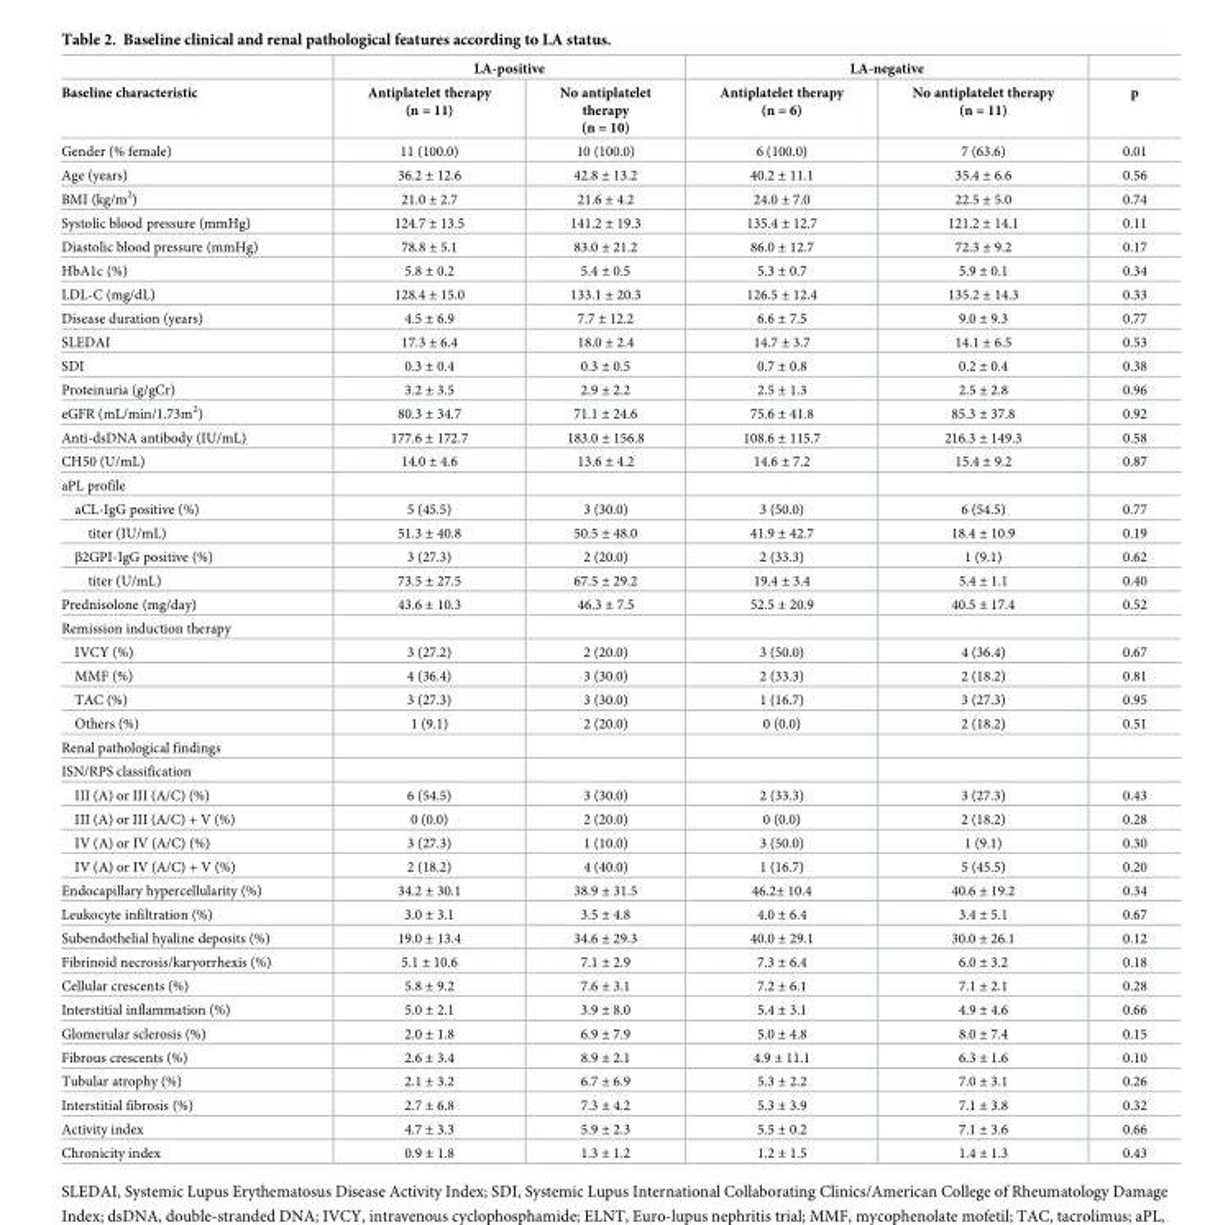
<table><thead><tr><td rowspan="2">Baseline characteristic</td><td colspan="2">LA-positive</td><td colspan="2">LA-negative</td><td rowspan="2">p</td></tr><tr><td>Antiplatelet therapy (n = 11)</td><td>No antiplatelet therapy (n = 10)</td><td>Antiplatelet therapy (n = 6)</td><td>No antiplatelet therapy (n = 11)</td></tr></thead><tbody><tr><td>Gender (% female)</td><td>11 (100.0)</td><td>10 (100.0)</td><td>6 (100.0)</td><td>7 (63.6)</td><td>0.01</td></tr><tr><td>Age (years)</td><td>36.2 ± 12.6</td><td>42.8 ± 13.2</td><td>40.2 ± 11.1</td><td>35.4 ± 6.6</td><td>0.56</td></tr><tr><td>BMI (kg/m<sup>2</sup>)</td><td>21.0 ± 2.7</td><td>21.6 ± 4.2</td><td>24.0 ± 7.0</td><td>22.5 ± 5.0</td><td>0.74</td></tr><tr><td>Systolic blood pressure (mmHg)</td><td>124.7 ± 13.5</td><td>141.2 ± 19.3</td><td>135.4 ± 12.7</td><td>121.2 ± 14.1</td><td>0.11</td></tr><tr><td>Diastolic blood pressure (mmHg)</td><td>78.8 ± 5.1</td><td>83.0 ± 21.2</td><td>86.0 ± 12.7</td><td>72.3 ± 9.2</td><td>0.17</td></tr><tr><td>HbA1c (%)</td><td>5.8 ± 0.2</td><td>5.4 ± 0.5</td><td>5.3 ± 0.7</td><td>5.9 ± 0.1</td><td>0.34</td></tr><tr><td>LDL-C (mg/dL)</td><td>128.4 ± 15.0</td><td>133.1 ± 20.3</td><td>126.5 ± 12.4</td><td>135.2 ± 14.3</td><td>0.33</td></tr><tr><td>Disease duration (years)</td><td>4.5 ± 6.9</td><td>7.7 ± 12.2</td><td>6.6 ± 7.5</td><td>9.0 ± 9.3</td><td>0.77</td></tr><tr><td>SLEDAI</td><td>17.3 ± 6.4</td><td>18.0 ± 2.4</td><td>14.7 ± 3.7</td><td>14.1 ± 6.5</td><td>0.53</td></tr><tr><td>SDI</td><td>0.3 ± 0.4</td><td>0.3 ± 0.5</td><td>0.7 ± 0.8</td><td>0.2 ± 0.4</td><td>0.38</td></tr><tr><td>Proteinuria (g/gCr)</td><td>3.2 ± 3.5</td><td>2.9 ± 2.2</td><td>2.5 ± 1.3</td><td>2.5 ± 2.8</td><td>0.96</td></tr><tr><td>eGFR (mL/min/1.73m<sup>2</sup>)</td><td>80.3 ± 34.7</td><td>71.1 ± 24.6</td><td>75.6 ± 41.8</td><td>85.3 ± 37.8</td><td>0.92</td></tr><tr><td>Anti-dsDNA antibody (IU/mL)</td><td>177.6 ± 172.7</td><td>183.0 ± 156.8</td><td>108.6 ± 115.7</td><td>216.3 ± 149.3</td><td>0.58</td></tr><tr><td>CH50 (U/mL)</td><td>14.0 ± 4.6</td><td>13.6 ± 4.2</td><td>14.6 ± 7.2</td><td>15.4 ± 9.2</td><td>0.87</td></tr><tr><td colspan="6">aPL profile</td></tr><tr><td>aCL-IgG positive (%)</td><td>5 (45.5)</td><td>3 (30.0)</td><td>3 (50.0)</td><td>6 (54.5)</td><td>0.77</td></tr><tr><td>titer (IU/mL)</td><td>51.3 ± 40.8</td><td>50.5 ± 48.0</td><td>41.9 ± 42.7</td><td>18.4 ± 10.9</td><td>0.19</td></tr><tr><td>β2GPI-IgG positive (%)</td><td>3 (27.3)</td><td>2 (20.0)</td><td>2 (33.3)</td><td>1 (9.1)</td><td>0.62</td></tr><tr><td>titer (U/mL)</td><td>73.5 ± 27.5</td><td>67.5 ± 29.2</td><td>19.4 ± 3.4</td><td>5.4 ± 1.1</td><td>0.40</td></tr><tr><td>Prednisolone (mg/day)</td><td>43.6 ± 10.3</td><td>46.3 ± 7.5</td><td>52.5 ± 20.9</td><td>40.5 ± 17.4</td><td>0.52</td></tr><tr><td colspan="6">Remission induction therapy</td></tr><tr><td>IVCY (%)</td><td>3 (27.2)</td><td>2 (20.0)</td><td>3 (50.0)</td><td>4 (36.4)</td><td>0.67</td></tr><tr><td>MMF (%)</td><td>4 (36.4)</td><td>3 (30.0)</td><td>2 (33.3)</td><td>2 (18.2)</td><td>0.81</td></tr><tr><td>TAC (%)</td><td>3 (27.3)</td><td>3 (30.0)</td><td>1 (16.7)</td><td>3 (27.3)</td><td>0.95</td></tr><tr><td>Others (%)</td><td>1 (9.1)</td><td>2 (20.0)</td><td>0 (0.0)</td><td>2 (18.2)</td><td>0.51</td></tr><tr><td colspan="6">Renal pathological findings</td></tr><tr><td colspan="6">ISN/RPS classification</td></tr><tr><td>III (A) or III (A/C) (%)</td><td>6 (54.5)</td><td>3 (30.0)</td><td>2 (33.3)</td><td>3 (27.3)</td><td>0.43</td></tr><tr><td>III (A) or III (A/C) + V (%)</td><td>0 (0.0)</td><td>2 (20.0)</td><td>0 (0.0)</td><td>2 (18.2)</td><td>0.28</td></tr><tr><td>IV (A) or IV (A/C) (%)</td><td>3 (27.3)</td><td>1 (10.0)</td><td>3 (50.0)</td><td>1 (9.1)</td><td>0.30</td></tr><tr><td>IV (A) or IV (A/C) + V (%)</td><td>2 (18.2)</td><td>4 (40.0)</td><td>1 (16.7)</td><td>5 (45.5)</td><td>0.20</td></tr><tr><td>Endocapillary hypercellularity (%)</td><td>34.2 ± 30.1</td><td>38.9 ± 31.5</td><td>46.2± 10.4</td><td>40.6 ± 19.2</td><td>0.34</td></tr><tr><td>Leukocyte infiltration (%)</td><td>3.0 ± 3.1</td><td>3.5 ± 4.8</td><td>4.0 ± 6.4</td><td>3.4 ± 5.1</td><td>0.67</td></tr><tr><td>Subendothelial hyaline deposits (%)</td><td>19.0 ± 13.4</td><td>34.6 ± 29.3</td><td>40.0 ± 29.1</td><td>30.0 ± 26.1</td><td>0.12</td></tr><tr><td>Fibrinoid necrosis/karyorrhexis (%)</td><td>5.1 ± 10.6</td><td>7.1 ± 2.9</td><td>7.3 ± 6.4</td><td>6.0 ± 3.2</td><td>0.18</td></tr><tr><td>Cellular crescents (%)</td><td>5.8 ± 9.2</td><td>7.6 ± 3.1</td><td>7.2 ± 6.1</td><td>7.1 ± 2.1</td><td>0.28</td></tr><tr><td>Interstitial inflammation (%)</td><td>5.0 ± 2.1</td><td>3.9 ± 8.0</td><td>5.4 ± 3.1</td><td>4.9 ± 4.6</td><td>0.66</td></tr><tr><td>Glomerular sclerosis (%)</td><td>2.0 ± 1.8</td><td>6.9 ± 7.9</td><td>5.0 ± 4.8</td><td>8.0 ± 7.4</td><td>0.15</td></tr><tr><td>Fibrous crescents (%)</td><td>2.6 ± 3.4</td><td>8.9 ± 2.1</td><td>4.9 ± 11.1</td><td>6.3 ± 1.6</td><td>0.10</td></tr><tr><td>Tubular atrophy (%)</td><td>2.1 ± 3.2</td><td>6.7 ± 6.9</td><td>5.3 ± 2.2</td><td>7.0 ± 3.1</td><td>0.26</td></tr><tr><td>Interstitial fibrosis (%)</td><td>2.7 ± 6.8</td><td>7.3 ± 4.2</td><td>5.3 ± 3.9</td><td>7.1 ± 3.8</td><td>0.32</td></tr><tr><td>Activity index</td><td>4.7 ± 3.3</td><td>5.9 ± 2.3</td><td>5.5 ± 0.2</td><td>7.1 ± 3.6</td><td>0.66</td></tr><tr><td>Chronicity index</td><td>0.9 ± 1.8</td><td>1.3 ± 1.2</td><td>1.2 ± 1.5</td><td>1.4 ± 1.3</td><td>0.43</td></tr></tbody></table>